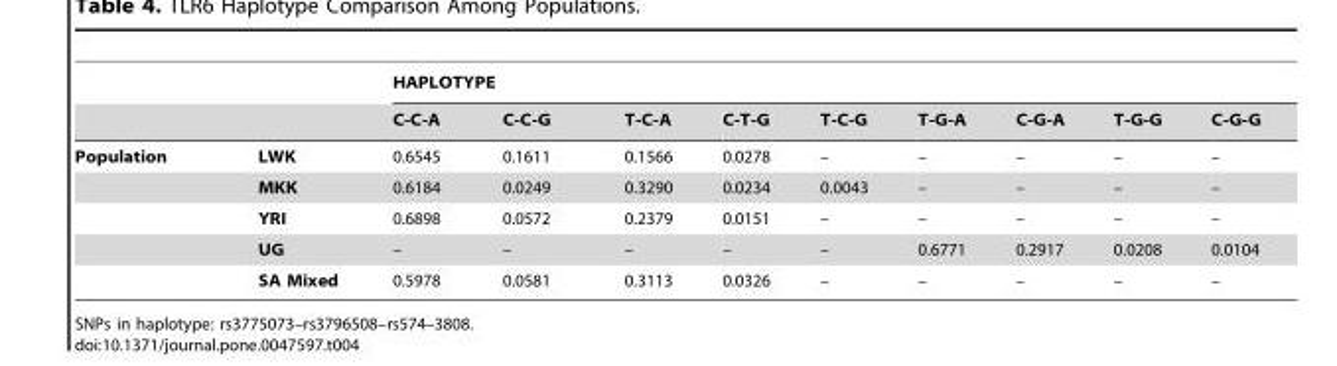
<table><thead><tr><td rowspan="2"></td><td rowspan="2"></td><td colspan="9">HAPLOTYPE</td></tr><tr><td>C-C-A</td><td>C-C-G</td><td>T-C-A</td><td>C-T-G</td><td>T-C-G</td><td>T-G-A</td><td>C-G-A</td><td>T-G-G</td><td>C-G-G</td></tr></thead><tbody><tr><td rowspan="5">Population</td><td>LWK</td><td>0.6545</td><td>0.1611</td><td>0.1566</td><td>0.0278</td><td>–</td><td>–</td><td>–</td><td>–</td><td>–</td></tr><tr><td>MKK</td><td>0.6184</td><td>0.0249</td><td>0.3290</td><td>0.0234</td><td>0.0043</td><td>–</td><td>–</td><td>–</td><td>–</td></tr><tr><td>YRI</td><td>0.6898</td><td>0.0572</td><td>0.2379</td><td>0.0151</td><td>–</td><td>–</td><td>–</td><td>–</td><td>–</td></tr><tr><td>UG</td><td>–</td><td>–</td><td>–</td><td>–</td><td>–</td><td>0.6771</td><td>0.2917</td><td>0.0208</td><td>0.0104</td></tr><tr><td>SA Mixed</td><td>0.5978</td><td>0.0581</td><td>0.3113</td><td>0.0326</td><td>–</td><td>–</td><td>–</td><td>–</td><td>–</td></tr></tbody></table>